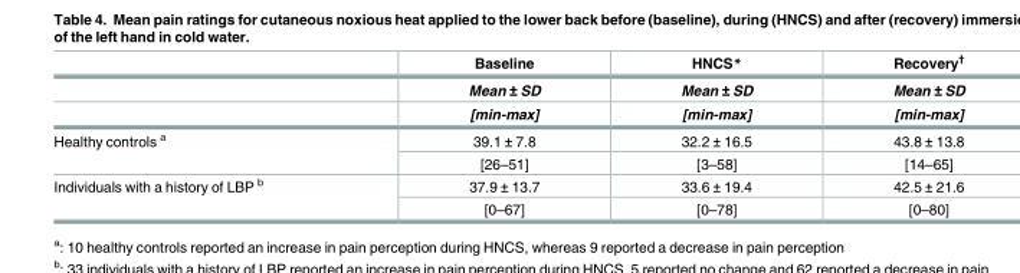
<table><thead><tr><td rowspan="3"></td><td rowspan="3">Baseline Mean ± SD [min-max]</td><td rowspan="3">HNCS* Mean ± SD [min-max]</td><td rowspan="3">Recovery<sup>†</sup> Mean ± SD [min-max]</td></tr><tr></tr><tr></tr></thead><tbody><tr><td rowspan="2">Healthy controls <sup>a</sup></td><td>39.1 ± 7.8</td><td>32.2 ± 16.5</td><td>43.8 ± 13.8</td></tr><tr><td>[26–51]</td><td>[3–58]</td><td>[14–65]</td></tr><tr><td rowspan="2">Individuals with a history of LBP <sup>b</sup></td><td>37.9 ± 13.7</td><td>33.6 ± 19.4</td><td>42.5 ± 21.6</td></tr><tr><td>[0–67]</td><td>[0–78]</td><td>[0–80]</td></tr></tbody></table>